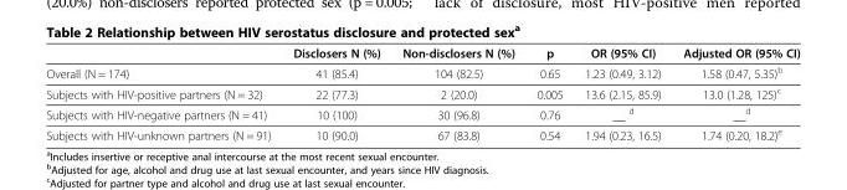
<table><thead><tr><td></td><td>Disclosers N (%)</td><td>Non-disclosers N (%)</td><td>p</td><td>OR (95% CI)</td><td>Adjusted OR (95% CI)</td></tr></thead><tbody><tr><td>Overall (N = 174)</td><td>41 (85.4)</td><td>104 (82.5)</td><td>0.65</td><td>1.23 (0.49, 3.12)</td><td>1.58 (0.47, 5.35)<sup>b</sup></td></tr><tr><td>Subjects with HIV-positive partners (N = 32)</td><td>22 (77.3)</td><td>2 (20.0)</td><td>0.005</td><td>13.6 (2.15, 85.9)</td><td>13.0 (1.28, 125)<sup>c</sup></td></tr><tr><td>Subjects with HIV-negative partners (N = 41)</td><td>10 (100)</td><td>30 (96.8)</td><td>0.76</td><td>__ <sup>d</sup></td><td>__<sup>d</sup></td></tr><tr><td>Subjects with HIV-unknown partners (N = 91)</td><td>10 (90.0)</td><td>67 (83.8)</td><td>0.54</td><td>1.94 (0.23, 16.5)</td><td>1.74 (0.20, 18.2)<sup>e</sup></td></tr></tbody></table>